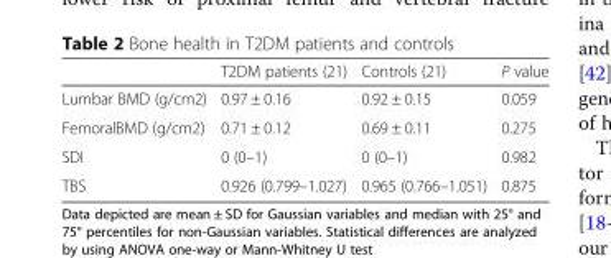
<table><thead><tr><td></td><td>T2DM patients (21)</td><td>Controls (21)</td><td>P value</td></tr></thead><tbody><tr><td>Lumbar BMD (g/cm2)</td><td>0.97 ± 0.16</td><td>0.92 ± 0.15</td><td>0.059</td></tr><tr><td>FemoralBMD (g/cm2)</td><td>0.71 ± 0.12</td><td>0.69 ± 0.11</td><td>0.275</td></tr><tr><td>SDI</td><td>0 (0–1)</td><td>0 (0–1)</td><td>0.982</td></tr><tr><td>TBS</td><td>0.926 (0.799–1.027)</td><td>0.965 (0.766–1.051)</td><td>0.875</td></tr></tbody></table>